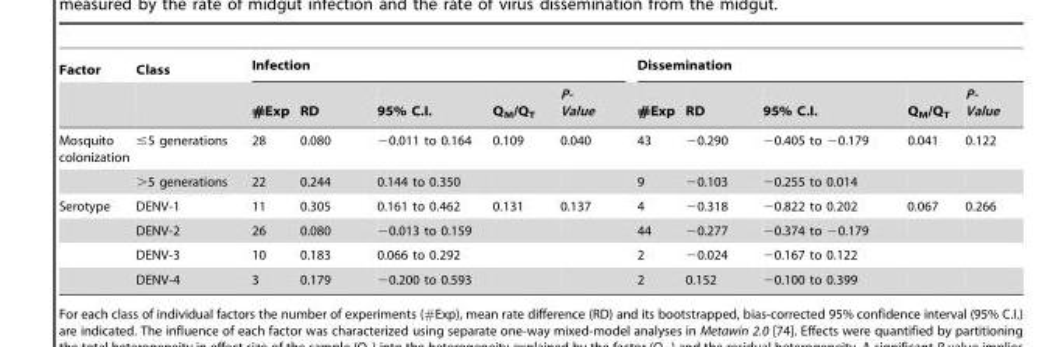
<table><thead><tr><td rowspan="2">Factor</td><td rowspan="2">Class</td><td colspan="5">Infection</td><td colspan="5">Dissemination</td></tr><tr><td>#Exp</td><td>RD</td><td>95% C.I.</td><td>Q<sub>M</sub>/Q<sub>T</sub></td><td>P- Value</td><td>#Exp</td><td>RD</td><td>95% C.I.</td><td>Q<sub>M</sub>/Q<sub>T</sub></td><td>P- Value</td></tr></thead><tbody><tr><td rowspan="2">Mosquito colonization</td><td>≤5 generations</td><td>28</td><td>0.080</td><td>−0.011 to 0.164</td><td>0.109</td><td>0.040</td><td>43</td><td>−0.290</td><td>−0.405 to −0.179</td><td>0.041</td><td>0.122</td></tr><tr><td>&gt;5 generations</td><td>22</td><td>0.244</td><td>0.144 to 0.350</td><td></td><td></td><td>9</td><td>−0.103</td><td>−0.255 to 0.014</td><td></td><td></td></tr><tr><td rowspan="4">Serotype</td><td>DENV-1</td><td>11</td><td>0.305</td><td>0.161 to 0.462</td><td>0.131</td><td>0.137</td><td>4</td><td>−0.318</td><td>−0.822 to 0.202</td><td>0.067</td><td>0.266</td></tr><tr><td>DENV-2</td><td>26</td><td>0.080</td><td>−0.013 to 0.159</td><td></td><td></td><td>44</td><td>−0.277</td><td>−0.374 to −0.179</td><td></td><td></td></tr><tr><td>DENV-3</td><td>10</td><td>0.183</td><td>0.066 to 0.292</td><td></td><td></td><td>2</td><td>−0.024</td><td>−0.167 to 0.122</td><td></td><td></td></tr><tr><td>DENV-4</td><td>3</td><td>0.179</td><td>−0.200 to 0.593</td><td></td><td></td><td>2</td><td>0.152</td><td>−0.100 to 0.399</td><td></td><td></td></tr></tbody></table>